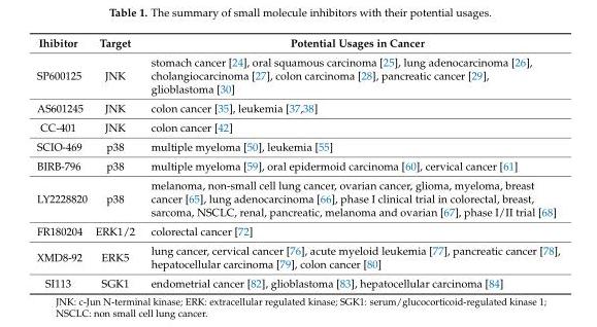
<table><thead><tr><td>Ihibitor</td><td>Target</td><td>Potential Usages in Cancer</td></tr></thead><tbody><tr><td>SP600125</td><td>JNK</td><td>stomach cancer [24], oral squamous carcinoma [25], lung adenocarcinoma [26], cholangiocarcinoma [27], colon carcinoma [28], pancreatic cancer [29], glioblastoma [30]</td></tr><tr><td>AS601245</td><td>JNK</td><td>colon cancer [35], leukemia [37,38]</td></tr><tr><td>CC-401</td><td>JNK</td><td>colon cancer [42]</td></tr><tr><td>SCIO-469</td><td>p38</td><td>multiple myeloma [50], leukemia [55]</td></tr><tr><td>BIRB-796</td><td>p38</td><td>multiple myeloma [59], oral epidermoid carcinoma [60], cervical cancer [61]</td></tr><tr><td>LY2228820</td><td>p38</td><td>melanoma, non-small cell lung cancer, ovarian cancer, glioma, myeloma, breast cancer [65], lung adenocarcinoma [66], phase I clinical trial in colorectal, breast, sarcoma, NSCLC, renal, pancreatic, melanoma and ovarian [67], phase I/II trial [68]</td></tr><tr><td>FR180204</td><td>ERK1/2</td><td>colorectal cancer [72]</td></tr><tr><td>XMD8-92</td><td>ERK5</td><td>lung cancer, cervical cancer [76], acute myeloid leukemia [77], pancreatic cancer [78], hepatocellular carcinoma [79], colon cancer [80]</td></tr><tr><td>SI113</td><td>SGK1</td><td>endometrial cancer [82], glioblastoma [83], hepatocellular carcinoma [84]</td></tr></tbody></table>